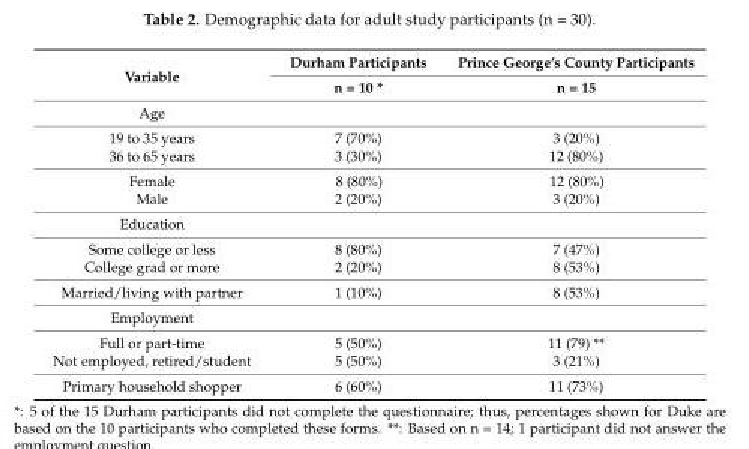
<table><thead><tr><td rowspan="2">Variable</td><td rowspan="2">Durham Participants n = 10 *</td><td rowspan="2">Prince George’s County Participants n = 15</td></tr><tr></tr></thead><tbody><tr><td colspan="3">Age</td></tr><tr><td>19 to 35 years</td><td>7 (70%)</td><td>3 (20%)</td></tr><tr><td>36 to 65 years</td><td>3 (30%)</td><td>12 (80%)</td></tr><tr><td>Female Male</td><td>8 (80%) 2 (20%)</td><td>12 (80%) 3 (20%)</td></tr><tr><td colspan="3">Education</td></tr><tr><td>Some college or less</td><td>8 (80%)</td><td>7 (47%)</td></tr><tr><td>College grad or more</td><td>2 (20%)</td><td>8 (53%)</td></tr><tr><td>Married/living with partner</td><td>1 (10%)</td><td>8 (53%)</td></tr><tr><td colspan="3">Employment</td></tr><tr><td>Full or part-time</td><td>5 (50%)</td><td>11 (79) **</td></tr><tr><td>Not employed, retired/student</td><td>5 (50%)</td><td>3 (21%)</td></tr><tr><td>Primary household shopper</td><td>6 (60%)</td><td>11 (73%)</td></tr></tbody></table>